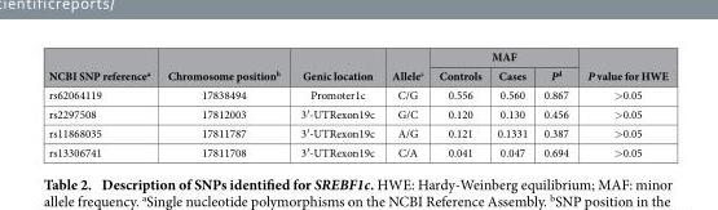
<table><thead><tr><td rowspan="2">NCBI SNP reference<sup>a</sup></td><td rowspan="2">Chromosome position<sup>b</sup></td><td rowspan="2">Genic location</td><td rowspan="2">Allele<sup>c</sup></td><td colspan="3">MAF</td><td rowspan="2">P value for HWE</td></tr><tr><td>Controls</td><td>Cases</td><td>P<sup>d</sup></td></tr></thead><tbody><tr><td>rs62064119</td><td>17838494</td><td>Promoter1c</td><td>C/G</td><td>0.556</td><td>0.560</td><td>0.867</td><td>&gt; 0.05</td></tr><tr><td>rs2297508</td><td>17812003</td><td>3′ -UTRexon19c</td><td>G/C</td><td>0.120</td><td>0.130</td><td>0.456</td><td>&gt; 0.05</td></tr><tr><td>rs11868035</td><td>17811787</td><td>3′ -UTRexon19c</td><td>A/G</td><td>0.121</td><td>0.1331</td><td>0.387</td><td>&gt; 0.05</td></tr><tr><td>rs13306741</td><td>17811708</td><td>3′ -UTRexon19c</td><td>C/A</td><td>0.041</td><td>0.047</td><td>0.694</td><td>&gt; 0.05</td></tr></tbody></table>